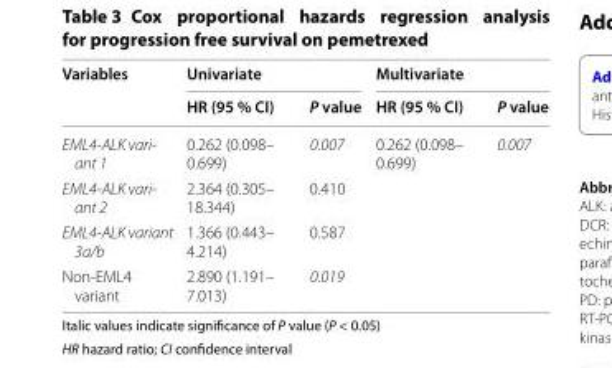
<table><thead><tr><td rowspan="2">Variables</td><td colspan="2">Univariate</td><td colspan="2">Multivariate</td></tr><tr><td>HR (95 % CI)</td><td>P value</td><td>HR (95 % CI)</td><td>P value</td></tr></thead><tbody><tr><td>EML4-ALK vari- ant 1</td><td>0.262 (0.098– 0.699)</td><td>0.007</td><td>0.262 (0.098– 0.699)</td><td>0.007</td></tr><tr><td>EML4-ALK vari- ant 2</td><td>2.364 (0.305– 18.344)</td><td>0.410</td><td></td><td></td></tr><tr><td>EML4-ALK variant 3a/b</td><td>1.366 (0.443– 4.214)</td><td>0.587</td><td></td><td></td></tr><tr><td>Non-EML4 variant</td><td>2.890 (1.191– 7.013)</td><td>0.019</td><td></td><td></td></tr></tbody></table>